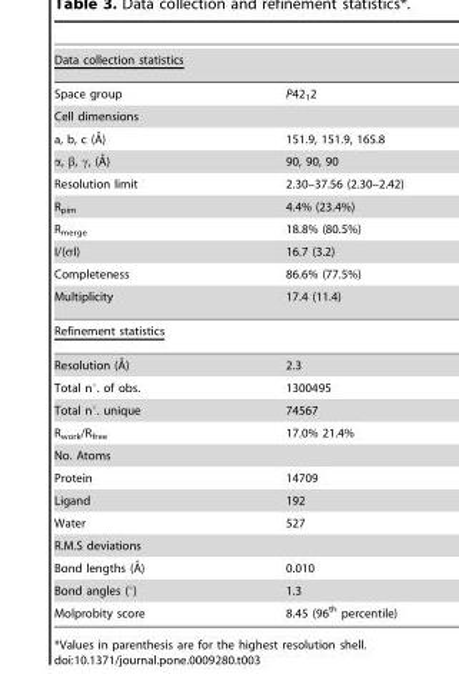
<table><tbody><tr><td colspan="2">Data collection statistics</td></tr><tr><td>Space group</td><td>P42<sub>1</sub>2</td></tr><tr><td colspan="2">Cell dimensions</td></tr><tr><td>a, b, c (A˚)</td><td>151.9, 151.9, 165.8</td></tr><tr><td>a, b, c, (A˚)</td><td>90, 90, 90</td></tr><tr><td>Resolution limit</td><td>2.30–37.56 (2.30–2.42)</td></tr><tr><td>R<sub>pim</sub></td><td>4.4% (23.4%)</td></tr><tr><td>R<sub>merge</sub></td><td>18.8% (80.5%)</td></tr><tr><td>I/(σI)</td><td>16.7 (3.2)</td></tr><tr><td>Completeness</td><td>86.6% (77.5%)</td></tr><tr><td>Multiplicity</td><td>17.4 (11.4)</td></tr><tr><td colspan="2">Refinement statistics</td></tr><tr><td>Resolution (A˚)</td><td>2.3</td></tr><tr><td>Total n°. of obs.</td><td>1300495</td></tr><tr><td>Total n°. unique</td><td>74567</td></tr><tr><td>R<sub>work</sub>/R<sub>free</sub></td><td>17.0% 21.4%</td></tr><tr><td colspan="2">No. Atoms</td></tr><tr><td>Protein</td><td>14709</td></tr><tr><td>Ligand</td><td>192</td></tr><tr><td>Water</td><td>527</td></tr><tr><td colspan="2">R.M.S deviations</td></tr><tr><td>Bond lengths (A˚)</td><td>0.010</td></tr><tr><td>Bond angles (°)</td><td>1.3</td></tr><tr><td>Molprobity score</td><td>8.45 (96<sup>th</sup> percentile)</td></tr></tbody></table>